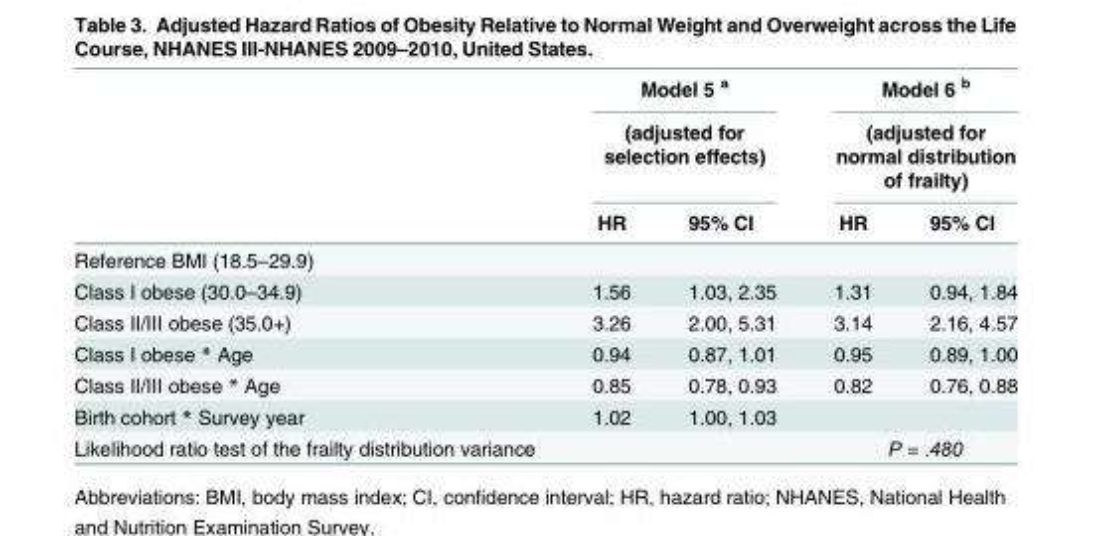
<table><thead><tr><td rowspan="3"></td><td rowspan="2" colspan="2">Model 5 <sup>a</sup> (adjusted for selection effects)</td><td rowspan="2" colspan="2">Model 6 <sup>b</sup> (adjusted for normal distribution of frailty)</td></tr><tr></tr><tr><td>HR</td><td>95% CI</td><td>HR</td><td>95% CI</td></tr></thead><tbody><tr><td colspan="5">Reference BMI (18.5–29.9)</td></tr><tr><td>Class I obese (30.0–34.9)</td><td>1.56</td><td>1.03, 2.35</td><td>1.31</td><td>0.94, 1.84</td></tr><tr><td>Class II/III obese (35.0+)</td><td>3.26</td><td>2.00, 5.31</td><td>3.14</td><td>2.16, 4.57</td></tr><tr><td>Class I obese * Age</td><td>0.94</td><td>0.87, 1.01</td><td>0.95</td><td>0.89, 1.00</td></tr><tr><td>Class II/III obese * Age</td><td>0.85</td><td>0.78, 0.93</td><td>0.82</td><td>0.76, 0.88</td></tr><tr><td>Birth cohort * Survey year</td><td>1.02</td><td>1.00, 1.03</td><td></td><td></td></tr><tr><td>Likelihood ratio test of the frailty distribution variance</td><td colspan="2"></td><td colspan="2">P = .480</td></tr></tbody></table>